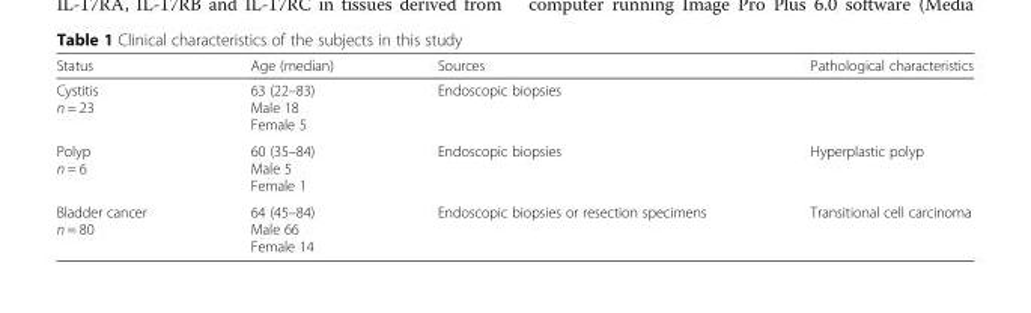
<table><thead><tr><td>Status</td><td>Age (median)</td><td>Sources</td><td>Pathological characteristics</td></tr></thead><tbody><tr><td>Cystitis n = 23</td><td>63 (22–83) Male 18 Female 5</td><td>Endoscopic biopsies</td><td></td></tr><tr><td>Polyp n = 6</td><td>60 (35–84) Male 5 Female 1</td><td>Endoscopic biopsies</td><td>Hyperplastic polyp</td></tr><tr><td>Bladder cancer n = 80</td><td>64 (45–84) Male 66 Female 14</td><td>Endoscopic biopsies or resection specimens</td><td>Transitional cell carcinoma</td></tr></tbody></table>